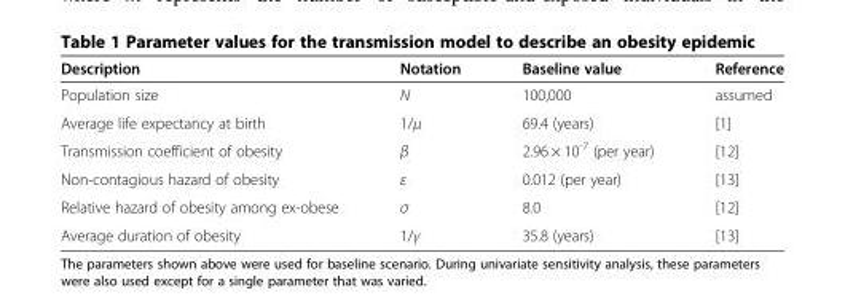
<table><thead><tr><td>Description</td><td>Notation</td><td>Baseline value</td><td>Reference</td></tr></thead><tbody><tr><td>Population size</td><td>N</td><td>100,000</td><td>assumed</td></tr><tr><td>Average life expectancy at birth</td><td>1/μ</td><td>69.4 (years)</td><td>[1]</td></tr><tr><td>Transmission coefficient of obesity</td><td>β</td><td>2.96 × 10<sup>-7</sup> (per year)</td><td>[12]</td></tr><tr><td>Non-contagious hazard of obesity</td><td>ε</td><td>0.012 (per year)</td><td>[13]</td></tr><tr><td>Relative hazard of obesity among ex-obese</td><td>σ</td><td>8.0</td><td>[12]</td></tr><tr><td>Average duration of obesity</td><td>1/γ</td><td>35.8 (years)</td><td>[13]</td></tr></tbody></table>